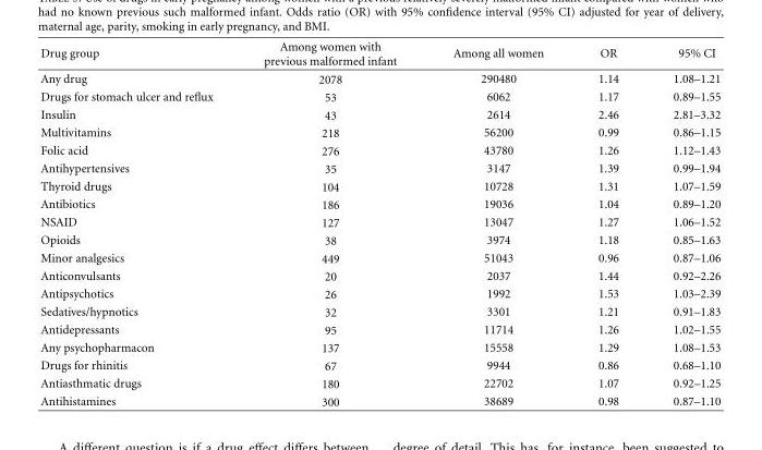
<table><thead><tr><td>Drug group</td><td>Among women with previous malformed infant</td><td>Among all women</td><td>OR</td><td>95% CI</td></tr></thead><tbody><tr><td>Any drug</td><td>2078</td><td>290480</td><td>1.14</td><td>1.08–1.21</td></tr><tr><td>Drugs for stomach ulcer and reflux</td><td>53</td><td>6062</td><td>1.17</td><td>0.89–1.55</td></tr><tr><td>Insulin</td><td>43</td><td>2614</td><td>2.46</td><td>2.81–3.32</td></tr><tr><td>Multivitamins</td><td>218</td><td>56200</td><td>0.99</td><td>0.86–1.15</td></tr><tr><td>Folic acid</td><td>276</td><td>43780</td><td>1.26</td><td>1.12–1.43</td></tr><tr><td>Antihypertensives</td><td>35</td><td>3147</td><td>1.39</td><td>0.99–1.94</td></tr><tr><td>Thyroid drugs</td><td>104</td><td>10728</td><td>1.31</td><td>1.07–1.59</td></tr><tr><td>Antibiotics</td><td>186</td><td>19036</td><td>1.04</td><td>0.89–1.20</td></tr><tr><td>NSAID</td><td>127</td><td>13047</td><td>1.27</td><td>1.06–1.52</td></tr><tr><td>Opioids</td><td>38</td><td>3974</td><td>1.18</td><td>0.85–1.63</td></tr><tr><td>Minor analgesics</td><td>449</td><td>51043</td><td>0.96</td><td>0.87–1.06</td></tr><tr><td>Anticonvulsants</td><td>20</td><td>2037</td><td>1.44</td><td>0.92–2.26</td></tr><tr><td>Antipsychotics</td><td>26</td><td>1992</td><td>1.53</td><td>1.03–2.39</td></tr><tr><td>Sedatives/hypnotics</td><td>32</td><td>3301</td><td>1.21</td><td>0.91–1.83</td></tr><tr><td>Antidepressants</td><td>95</td><td>11714</td><td>1.26</td><td>1.02–1.55</td></tr><tr><td>Any psychopharmacon</td><td>137</td><td>15558</td><td>1.29</td><td>1.08–1.53</td></tr><tr><td>Drugs for rhinitis</td><td>67</td><td>9944</td><td>0.86</td><td>0.68–1.10</td></tr><tr><td>Antiasthmatic drugs</td><td>180</td><td>22702</td><td>1.07</td><td>0.92–1.25</td></tr><tr><td>Antihistamines</td><td>300</td><td>38689</td><td>0.98</td><td>0.87–1.10</td></tr></tbody></table>